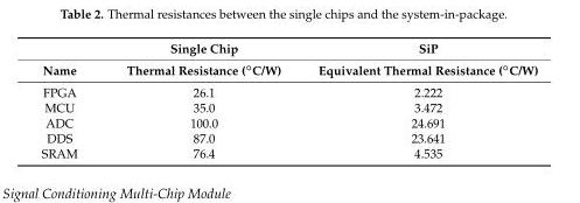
<table><thead><tr><td rowspan="2">Name</td><td rowspan="2">Single Chip Thermal Resistance (◦C/W)</td><td rowspan="2">SiP Equivalent Thermal Resistance (◦C/W)</td></tr><tr></tr></thead><tbody><tr><td>FPGA</td><td>26.1</td><td>2.222</td></tr><tr><td>MCU</td><td>35.0</td><td>3.472</td></tr><tr><td>ADC</td><td>100.0</td><td>24.691</td></tr><tr><td>DDS</td><td>87.0</td><td>23.641</td></tr><tr><td>SRAM</td><td>76.4</td><td>4.535</td></tr></tbody></table>